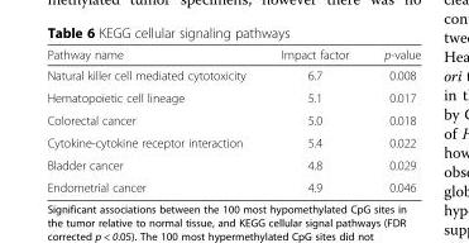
<table><thead><tr><td>Pathway name</td><td>Impact factor</td><td>p-value</td></tr></thead><tbody><tr><td>Natural killer cell mediated cytotoxicity</td><td>6.7</td><td>0.008</td></tr><tr><td>Hematopoietic cell lineage</td><td>5.1</td><td>0.017</td></tr><tr><td>Colorectal cancer</td><td>5.0</td><td>0.018</td></tr><tr><td>Cytokine-cytokine receptor interaction</td><td>5.4</td><td>0.022</td></tr><tr><td>Bladder cancer</td><td>4.8</td><td>0.029</td></tr><tr><td>Endometrial cancer</td><td>4.9</td><td>0.046</td></tr></tbody></table>